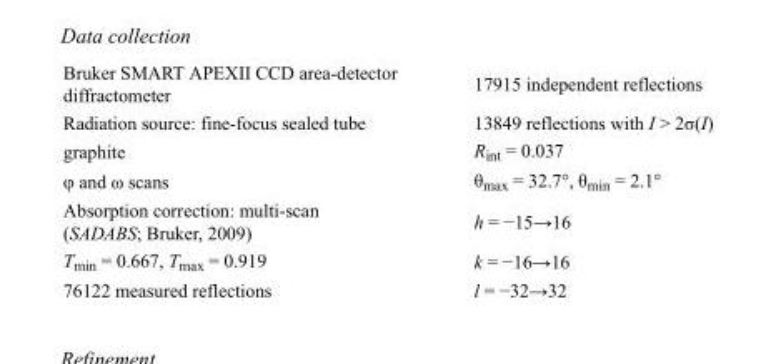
<table><tbody><tr><td>Bruker SMART APEXII CCD area-detector diffractometer</td><td>17915 independent reflections</td></tr><tr><td>Radiation source: fine-focus sealed tube</td><td>13849 reflections with I &gt; 2σ(I)</td></tr><tr><td>graphite</td><td>R<sub>int</sub> = 0.037</td></tr><tr><td>φ and ω scans</td><td>θ<sub>max</sub> = 32.7°, θ<sub>min</sub> = 2.1°</td></tr><tr><td>Absorption correction: multi-scan (SADABS; Bruker, 2009)</td><td>h = −15→16</td></tr><tr><td>T<sub>min</sub> = 0.667, T<sub>max</sub> = 0.919</td><td>k = −16→16</td></tr><tr><td>76122 measured reflections</td><td>l = −32→32</td></tr></tbody></table>